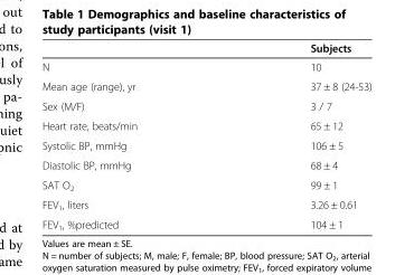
<table><thead><tr><td></td><td>Subjects</td></tr></thead><tbody><tr><td>N</td><td>10</td></tr><tr><td>Mean age (range), yr</td><td>37 ± 8 (24-53)</td></tr><tr><td>Sex (M/F)</td><td>3 / 7</td></tr><tr><td>Heart rate, beats/min</td><td>65 ± 12</td></tr><tr><td>Systolic BP, mmHg</td><td>106 ± 5</td></tr><tr><td>Diastolic BP, mmHg</td><td>68 ± 4</td></tr><tr><td>SAT O<sub>2</sub></td><td>99 ± 1</td></tr><tr><td>FEV<sub>1</sub>, liters</td><td>3.26 ± 0.61</td></tr><tr><td>FEV<sub>1</sub>, %predicted</td><td>104 ± 1</td></tr></tbody></table>